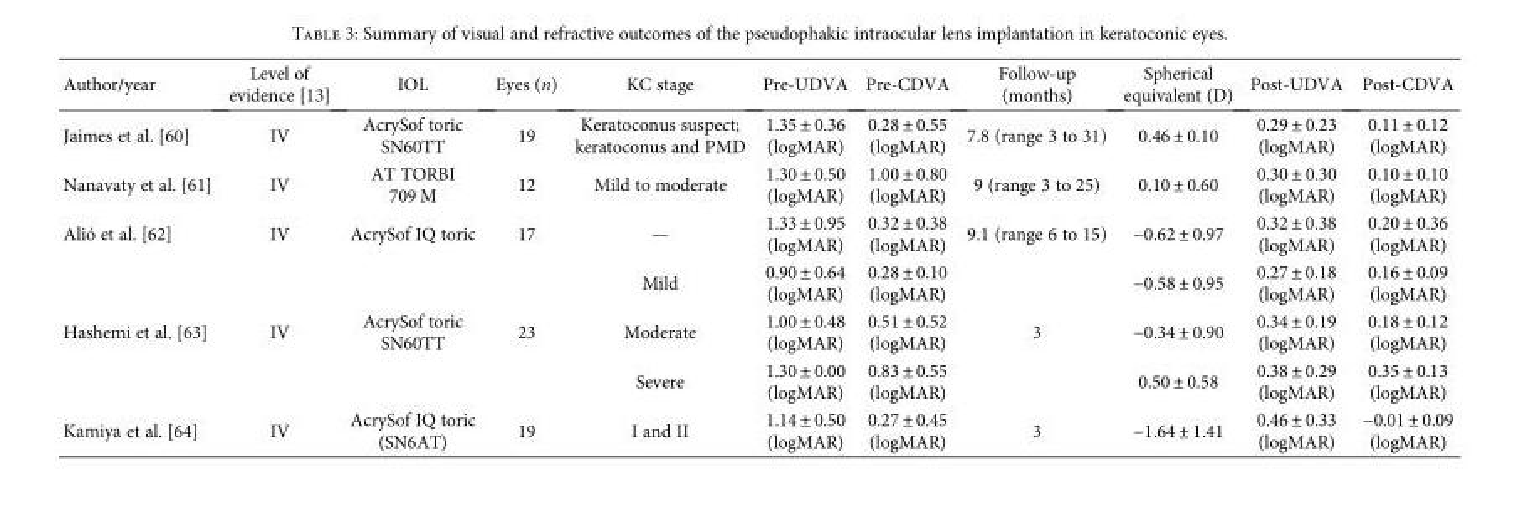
<table><thead><tr><td>Author/year</td><td>Level of evidence [13]</td><td>IOL</td><td>Eyes (n)</td><td>KC stage</td><td>Pre-UDVA</td><td>Pre-CDVA</td><td>Follow-up (months)</td><td>Spherical equivalent (D)</td><td>Post-UDVA</td><td>Post-CDVA</td></tr></thead><tbody><tr><td>Jaimes et al. [60]</td><td>IV</td><td>AcrySof toric SN60TT</td><td>19</td><td>Keratoconus suspect; keratoconus and PMD</td><td>1.35 ± 0.36 (logMAR)</td><td>0.28 ± 0.55 (logMAR)</td><td>7.8 (range 3 to 31)</td><td>0.46 ± 0.10</td><td>0.29 ± 0.23 (logMAR)</td><td>0.11 ± 0.12 (logMAR)</td></tr><tr><td>Nanavaty et al. [61]</td><td>IV</td><td>AT TORBI 709 M</td><td>12</td><td>Mild to moderate</td><td>1.30 ± 0.50 (logMAR)</td><td>1.00 ± 0.80 (logMAR)</td><td>9 (range 3 to 25)</td><td>0.10 ± 0.60</td><td>0.30 ± 0.30 (logMAR)</td><td>0.10 ± 0.10 (logMAR)</td></tr><tr><td>Alió et al. [62]</td><td>IV</td><td>AcrySof IQ toric</td><td>17</td><td>—</td><td>1.33 ± 0.95 (logMAR)</td><td>0.32 ± 0.38 (logMAR)</td><td>9.1 (range 6 to 15)</td><td>−0.62 ± 0.97</td><td>0.32 ± 0.38 (logMAR)</td><td>0.20 ± 0.36 (logMAR)</td></tr><tr><td rowspan="3">Hashemi et al. [63]</td><td rowspan="3">IV</td><td rowspan="3">AcrySof toric SN60TT</td><td rowspan="3">23</td><td>Mild</td><td>0.90 ± 0.64 (logMAR)</td><td>0.28 ± 0.10 (logMAR)</td><td rowspan="3">3</td><td>−0.58 ± 0.95</td><td>0.27 ± 0.18 (logMAR)</td><td>0.16 ± 0.09 (logMAR)</td></tr><tr><td>Moderate</td><td>1.00 ± 0.48 (logMAR)</td><td>0.51 ± 0.52 (logMAR)</td><td>−0.34 ± 0.90</td><td>0.34 ± 0.19 (logMAR)</td><td>0.18 ± 0.12 (logMAR)</td></tr><tr><td>Severe</td><td>1.30 ± 0.00 (logMAR)</td><td>0.83 ± 0.55 (logMAR)</td><td>0.50 ± 0.58</td><td>0.38 ± 0.29 (logMAR)</td><td>0.35 ± 0.13 (logMAR)</td></tr><tr><td>Kamiya et al. [64]</td><td>IV</td><td>AcrySof IQ toric (SN6AT)</td><td>19</td><td>I and II</td><td>1.14 ± 0.50 (logMAR)</td><td>0.27 ± 0.45 (logMAR)</td><td>3</td><td>−1.64 ± 1.41</td><td>0.46 ± 0.33 (logMAR)</td><td>−0.01 ± 0.09 (logMAR)</td></tr></tbody></table>